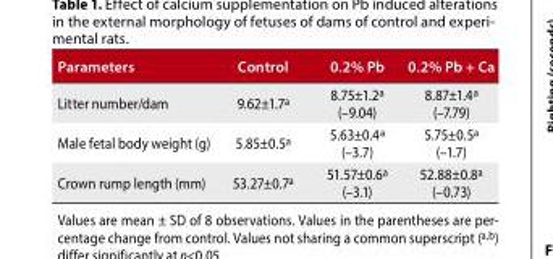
<table><thead><tr><td>Parameters</td><td>Control</td><td>0.2% Pb</td><td>0.2% Pb + Ca</td></tr></thead><tbody><tr><td>Litter number/dam</td><td>9.62±1.7<sup>a</sup></td><td>8.75±1.2<sup>a</sup> (–9.04)</td><td>8.87±1.4<sup>a</sup> (–7.79)</td></tr><tr><td>Male fetal body weight (g)</td><td>5.85±0.5<sup>a</sup></td><td>5.63±0.4<sup>a</sup> (–3.7)</td><td>5.75±0.5<sup>a</sup> (–1.7)</td></tr><tr><td>Crown rump length (mm)</td><td>53.27±0.7<sup>a</sup></td><td>51.57±0.6<sup>a</sup> (–3.1)</td><td>52.88±0.8<sup>a</sup> (–0.73)</td></tr></tbody></table>